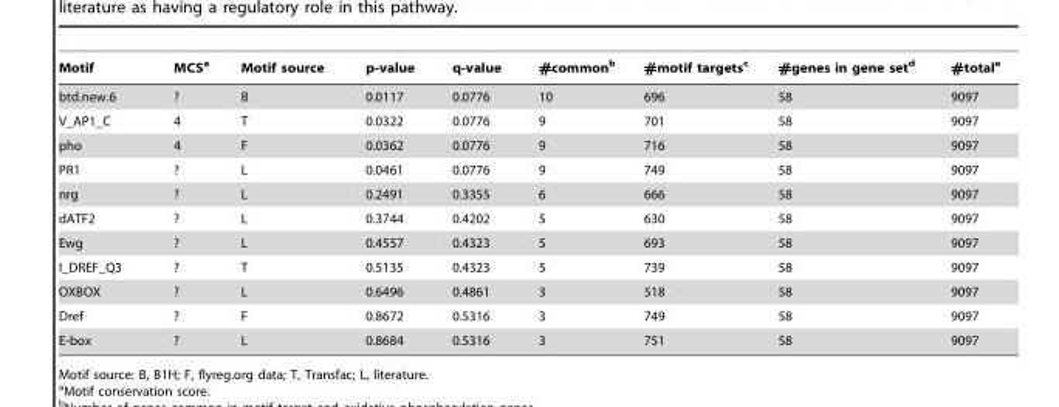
<table><thead><tr><td>Motif</td><td>MCS<sup>a</sup></td><td>Motif source</td><td>p-value</td><td>q-value</td><td>#common<sup>b</sup></td><td>#motif targets<sup>c</sup></td><td>#genes in gene set<sup>d</sup></td><td>#total<sup>e</sup></td></tr></thead><tbody><tr><td>btd.new.6</td><td>?</td><td>B</td><td>0.0117</td><td>0.0776</td><td>10</td><td>696</td><td>58</td><td>9097</td></tr><tr><td>V_AP1_C</td><td>4</td><td>T</td><td>0.0322</td><td>0.0776</td><td>9</td><td>701</td><td>58</td><td>9097</td></tr><tr><td>pho</td><td>4</td><td>F</td><td>0.0362</td><td>0.0776</td><td>9</td><td>716</td><td>58</td><td>9097</td></tr><tr><td>PR1</td><td>?</td><td>L</td><td>0.0461</td><td>0.0776</td><td>9</td><td>749</td><td>58</td><td>9097</td></tr><tr><td>nrg</td><td>?</td><td>L</td><td>0.2491</td><td>0.3355</td><td>6</td><td>666</td><td>58</td><td>9097</td></tr><tr><td>dATF2</td><td>?</td><td>L</td><td>0.3744</td><td>0.4202</td><td>5</td><td>630</td><td>58</td><td>9097</td></tr><tr><td>Ewg</td><td>?</td><td>L</td><td>0.4557</td><td>0.4323</td><td>5</td><td>693</td><td>58</td><td>9097</td></tr><tr><td>I_DREF_Q3</td><td>?</td><td>T</td><td>0.5135</td><td>0.4323</td><td>5</td><td>739</td><td>58</td><td>9097</td></tr><tr><td>OXBOX</td><td>?</td><td>L</td><td>0.6496</td><td>0.4861</td><td>3</td><td>518</td><td>58</td><td>9097</td></tr><tr><td>Dref</td><td>?</td><td>F</td><td>0.8672</td><td>0.5316</td><td>3</td><td>749</td><td>58</td><td>9097</td></tr><tr><td>E-box</td><td>?</td><td>L</td><td>0.8684</td><td>0.5316</td><td>3</td><td>751</td><td>58</td><td>9097</td></tr></tbody></table>